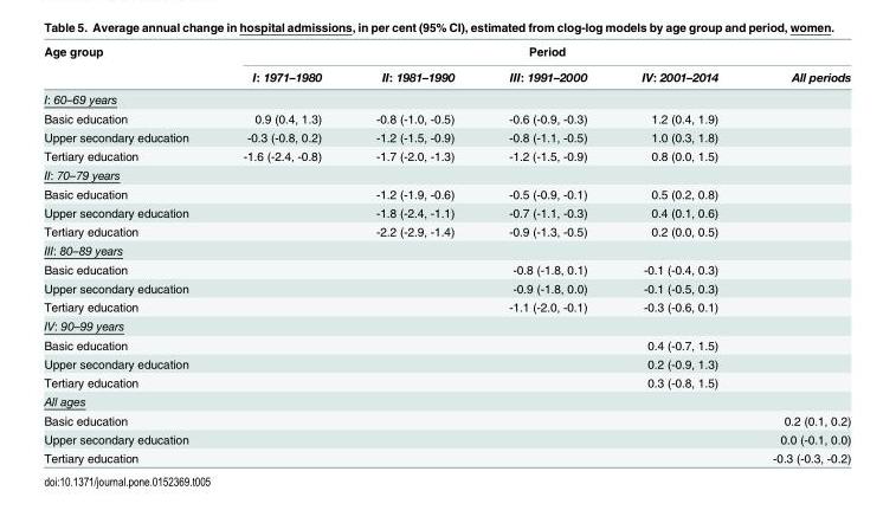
<table><thead><tr><td rowspan="2">Age group</td><td colspan="5">Period</td></tr><tr><td>I: 1971–1980</td><td>II: 1981–1990</td><td>III: 1991–2000</td><td>IV: 2001–2014</td><td>All periods</td></tr></thead><tbody><tr><td colspan="6">I: 60–69 years</td></tr><tr><td>Basic education</td><td>0.9 (0.4, 1.3)</td><td>-0.8 (-1.0, -0.5)</td><td>-0.6 (-0.9, -0.3)</td><td>1.2 (0.4, 1.9)</td><td></td></tr><tr><td>Upper secondary education</td><td>-0.3 (-0.8, 0.2)</td><td>-1.2 (-1.5, -0.9)</td><td>-0.8 (-1.1, -0.5)</td><td>1.0 (0.3, 1.8)</td><td></td></tr><tr><td>Tertiary education</td><td>-1.6 (-2.4, -0.8)</td><td>-1.7 (-2.0, -1.3)</td><td>-1.2 (-1.5, -0.9)</td><td>0.8 (0.0, 1.5)</td><td></td></tr><tr><td colspan="6">II: 70–79 years</td></tr><tr><td>Basic education</td><td></td><td>-1.2 (-1.9, -0.6)</td><td>-0.5 (-0.9, -0.1)</td><td>0.5 (0.2, 0.8)</td><td></td></tr><tr><td>Upper secondary education</td><td></td><td>-1.8 (-2.4, -1.1)</td><td>-0.7 (-1.1, -0.3)</td><td>0.4 (0.1, 0.6)</td><td></td></tr><tr><td>Tertiary education</td><td></td><td>-2.2 (-2.9, -1.4)</td><td>-0.9 (-1.3, -0.5)</td><td>0.2 (0.0, 0.5)</td><td></td></tr><tr><td colspan="6">III: 80–89 years</td></tr><tr><td>Basic education</td><td></td><td></td><td>-0.8 (-1.8, 0.1)</td><td>-0.1 (-0.4, 0.3)</td><td></td></tr><tr><td>Upper secondary education</td><td></td><td></td><td>-0.9 (-1.8, 0.0)</td><td>-0.1 (-0.5, 0.3)</td><td></td></tr><tr><td>Tertiary education</td><td></td><td></td><td>-1.1 (-2.0, -0.1)</td><td>-0.3 (-0.6, 0.1)</td><td></td></tr><tr><td colspan="6">IV: 90–99 years</td></tr><tr><td>Basic education</td><td></td><td></td><td></td><td>0.4 (-0.7, 1.5)</td><td></td></tr><tr><td>Upper secondary education</td><td></td><td></td><td></td><td>0.2 (-0.9, 1.3)</td><td></td></tr><tr><td>Tertiary education</td><td></td><td></td><td></td><td>0.3 (-0.8, 1.5)</td><td></td></tr><tr><td colspan="6">All ages</td></tr><tr><td>Basic education</td><td></td><td></td><td></td><td></td><td>0.2 (0.1, 0.2)</td></tr><tr><td>Upper secondary education</td><td></td><td></td><td></td><td></td><td>0.0 (-0.1, 0.0)</td></tr><tr><td>Tertiary education</td><td></td><td></td><td></td><td></td><td>-0.3 (-0.3, -0.2)</td></tr></tbody></table>